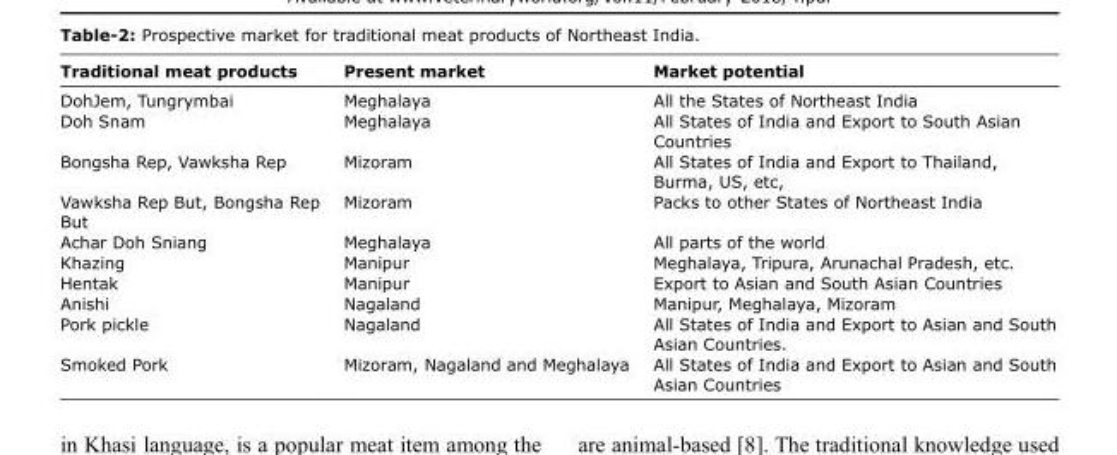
<table><thead><tr><td>Traditional meat products</td><td>Present market</td><td>Market potential</td></tr></thead><tbody><tr><td>DohJem, Tungrymbai</td><td>Meghalaya</td><td>All the States of Northeast India</td></tr><tr><td>Doh Snam</td><td>Meghalaya</td><td>All States of India and Export to South Asian Countries</td></tr><tr><td>Bongsha Rep, Vawksha Rep</td><td>Mizoram</td><td>All States of India and Export to Thailand, Burma, US, etc,</td></tr><tr><td>Vawksha Rep But, Bongsha Rep But</td><td>Mizoram</td><td>Packs to other States of Northeast India</td></tr><tr><td>Achar Doh Sniang</td><td>Meghalaya</td><td>All parts of the world</td></tr><tr><td>Khazing</td><td>Manipur</td><td>Meghalaya, Tripura, Arunachal Pradesh, etc.</td></tr><tr><td>Hentak</td><td>Manipur</td><td>Export to Asian and South Asian Countries</td></tr><tr><td>Anishi</td><td>Nagaland</td><td>Manipur, Meghalaya, Mizoram</td></tr><tr><td>Pork pickle</td><td>Nagaland</td><td>All States of India and Export to Asian and South Asian Countries.</td></tr><tr><td>Smoked Pork</td><td>Mizoram, Nagaland and Meghalaya</td><td>All States of India and Export to Asian and South Asian Countries</td></tr></tbody></table>